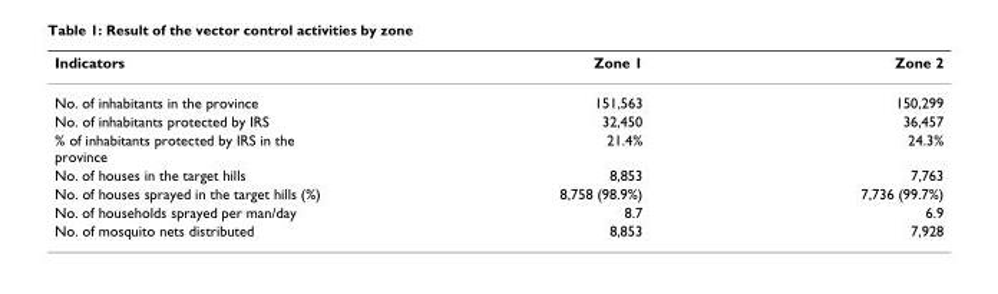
<table><thead><tr><td>Indicators</td><td>Zone 1</td><td>Zone 2</td></tr></thead><tbody><tr><td>No. of inhabitants in the province</td><td>151,563</td><td>150,299</td></tr><tr><td>No. of inhabitants protected by IRS</td><td>32,450</td><td>36,457</td></tr><tr><td>% of inhabitants protected by IRS in the province</td><td>21.4%</td><td>24.3%</td></tr><tr><td>No. of houses in the target hills</td><td>8,853</td><td>7,763</td></tr><tr><td>No. of houses sprayed in the target hills (%)</td><td>8,758 (98.9%)</td><td>7,736 (99.7%)</td></tr><tr><td>No. of households sprayed per man/day</td><td>8.7</td><td>6.9</td></tr><tr><td>No. of mosquito nets distributed</td><td>8,853</td><td>7,928</td></tr></tbody></table>